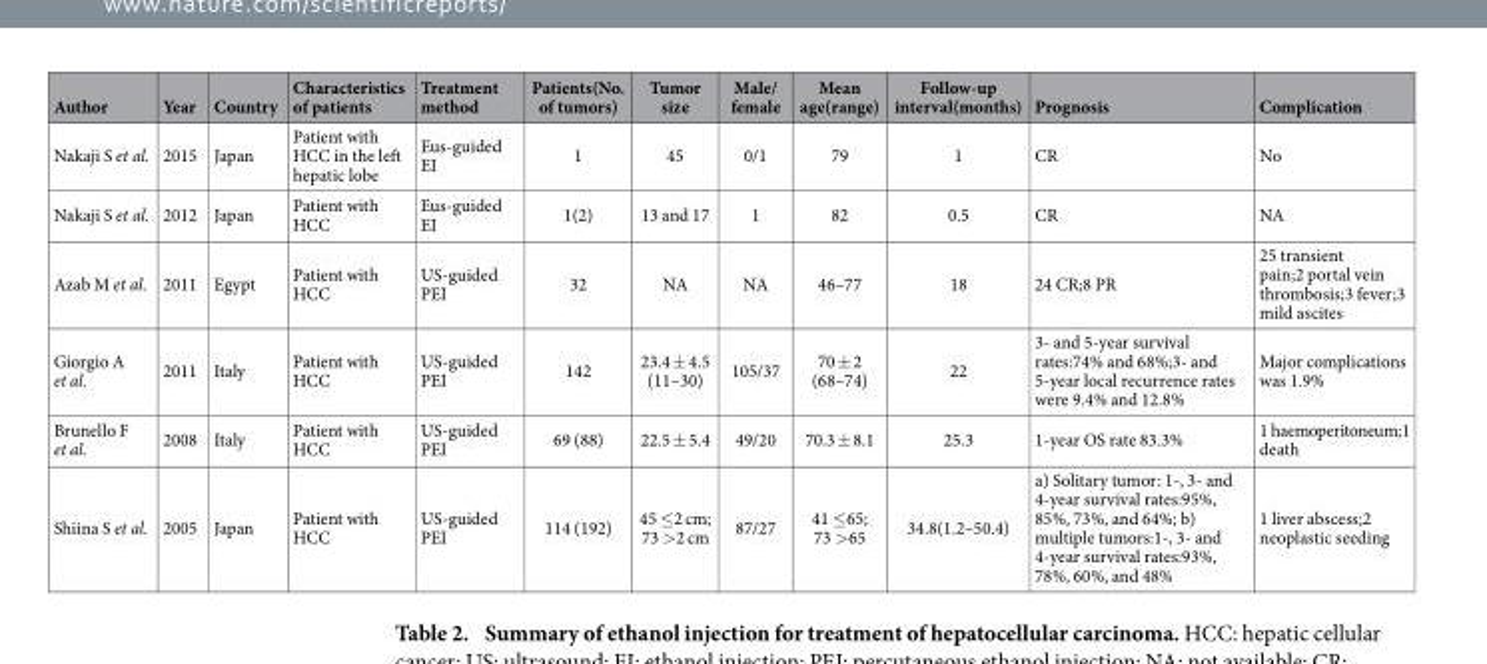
<table><thead><tr><td>Author</td><td>Year</td><td>Country</td><td>Characteristics of patients</td><td>Treatment method</td><td>Patients(No. of tumors)</td><td>Tumor size</td><td>Male/ female</td><td>Mean age(range)</td><td>Follow-up interval(months)</td><td>Prognosis</td><td>Complication</td></tr></thead><tbody><tr><td>Nakaji S et al.</td><td>2015</td><td>Japan</td><td>Patient with HCC in the left hepatic lobe</td><td>Eus-guided EI</td><td>1</td><td>45</td><td>0/1</td><td>79</td><td>1</td><td>CR</td><td>No</td></tr><tr><td>Nakaji S et al.</td><td>2012</td><td>Japan</td><td>Patient with HCC</td><td>Eus-guided EI</td><td>1(2)</td><td>13 and 17</td><td>1</td><td>82</td><td>0.5</td><td>CR</td><td>NA</td></tr><tr><td>Azab M et al.</td><td>2011</td><td>Egypt</td><td>Patient with HCC</td><td>US-guided PEI</td><td>32</td><td>NA</td><td>NA</td><td>46–77</td><td>18</td><td>24 CR;8 PR</td><td>25 transient pain;2 portal vein thrombosis;3 fever;3 mild ascites</td></tr><tr><td>Giorgio A et al.</td><td>2011</td><td>Italy</td><td>Patient with HCC</td><td>US-guided PEI</td><td>142</td><td>23.4 ± 4.5 (11–30)</td><td>105/37</td><td>70 ± 2 (68–74)</td><td>22</td><td>3- and 5-year survival rates:74% and 68%;3- and 5-year local recurrence rates were 9.4% and 12.8%</td><td>Major complications was 1.9%</td></tr><tr><td>Brunello F et al.</td><td>2008</td><td>Italy</td><td>Patient with HCC</td><td>US-guided PEI</td><td>69 (88)</td><td>22.5 ± 5.4</td><td>49/20</td><td>70.3 ± 8.1</td><td>25.3</td><td>1-year OS rate 83.3%</td><td>1 haemoperitoneum;1 death</td></tr><tr><td>Shiina S et al.</td><td>2005</td><td>Japan</td><td>Patient with HCC</td><td>US-guided PEI</td><td>114 (192)</td><td>45 ≤ 2 cm; 73 &gt; 2 cm</td><td>87/27</td><td>41 ≤ 65; 73 &gt; 65</td><td>34.8(1.2–50.4)</td><td>a) Solitary tumor: 1-, 3- and 4-year survival rates:95%, 85%, 73%, and 64%; b) multiple tumors:1-, 3- and 4-year survival rates:93%, 78%, 60%, and 48%</td><td>1 liver abscess;2 neoplastic seeding</td></tr></tbody></table>